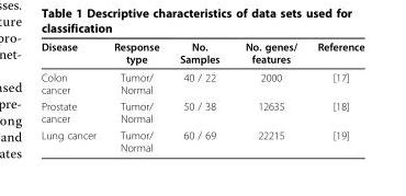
<table><thead><tr><td>Disease</td><td>Response type</td><td>No. Samples</td><td>No. genes/ features</td><td>Reference</td></tr></thead><tbody><tr><td>Colon cancer</td><td>Tumor/ Normal</td><td>40 / 22</td><td>2000</td><td>[17]</td></tr><tr><td>Prostate cancer</td><td>Tumor/ Normal</td><td>50 / 38</td><td>12635</td><td>[18]</td></tr><tr><td>Lung cancer</td><td>Tumor/ Normal</td><td>60 / 69</td><td>22215</td><td>[19]</td></tr></tbody></table>